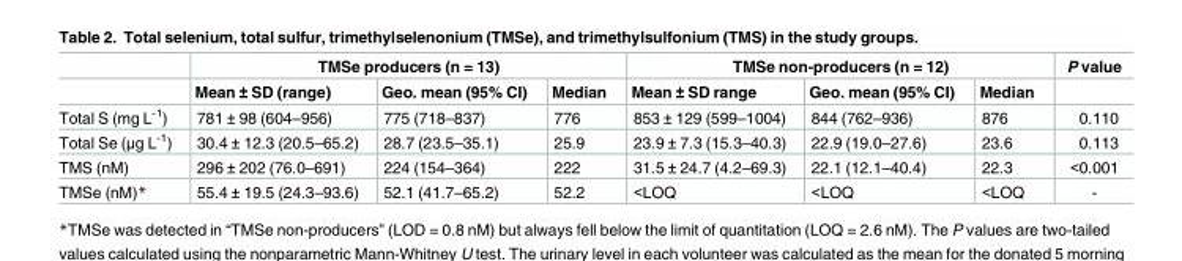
<table><thead><tr><td rowspan="2"></td><td colspan="3">TMSe producers (n = 13)</td><td colspan="3">TMSe non-producers (n = 12)</td><td rowspan="2">P value</td></tr><tr><td>Mean ± SD (range)</td><td>Geo. mean (95% CI)</td><td>Median</td><td>Mean ± SD range</td><td>Geo. mean (95% CI)</td><td>Median</td></tr></thead><tbody><tr><td>Total S (mg L<sup>-1</sup>)</td><td>781 ± 98 (604–956)</td><td>775 (718–837)</td><td>776</td><td>853 ± 129 (599–1004)</td><td>844 (762–936)</td><td>876</td><td>0.110</td></tr><tr><td>Total Se (μg L<sup>-1</sup>)</td><td>30.4 ± 12.3 (20.5–65.2)</td><td>28.7 (23.5–35.1)</td><td>25.9</td><td>23.9 ± 7.3 (15.3–40.3)</td><td>22.9 (19.0–27.6)</td><td>23.6</td><td>0.113</td></tr><tr><td>TMS (nM)</td><td>296 ± 202 (76.0–691)</td><td>224 (154–364)</td><td>222</td><td>31.5 ± 24.7 (4.2–69.3)</td><td>22.1 (12.1–40.4)</td><td>22.3</td><td>&lt;0.001</td></tr><tr><td>TMSe (nM)*</td><td>55.4 ± 19.5 (24.3–93.6)</td><td>52.1 (41.7–65.2)</td><td>52.2</td><td>&lt;LOQ</td><td>&lt;LOQ</td><td>&lt;LOQ</td><td>-</td></tr></tbody></table>